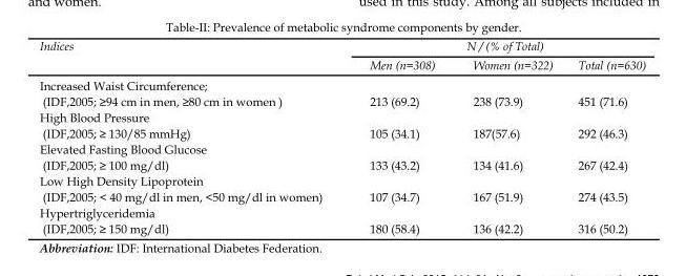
<table><thead><tr><td rowspan="2">Indices</td><td colspan="3">N / (% of Total)</td></tr><tr><td>Men (n=308)</td><td>Women (n=322)</td><td>Total (n=630)</td></tr></thead><tbody><tr><td>Increased Waist Circumference; (IDF,2005; ≥94 cm in men, ≥80 cm in women )</td><td>213 (69.2)</td><td>238 (73.9)</td><td>451 (71.6)</td></tr><tr><td>High Blood Pressure (IDF,2005; ≥ 130/85 mmHg)</td><td>105 (34.1)</td><td>187(57.6)</td><td>292 (46.3)</td></tr><tr><td>Elevated Fasting Blood Glucose (IDF,2005; ≥ 100 mg/dl)</td><td>133 (43.2)</td><td>134 (41.6)</td><td>267 (42.4)</td></tr><tr><td>Low High Density Lipoprotein (IDF,2005; &lt; 40 mg/dl in men, &lt;50 mg/dl in women)</td><td>107 (34.7)</td><td>167 (51.9)</td><td>274 (43.5)</td></tr><tr><td>Hypertriglyceridemia (IDF,2005; ≥ 150 mg/dl)</td><td>180 (58.4)</td><td>136 (42.2)</td><td>316 (50.2)</td></tr></tbody></table>